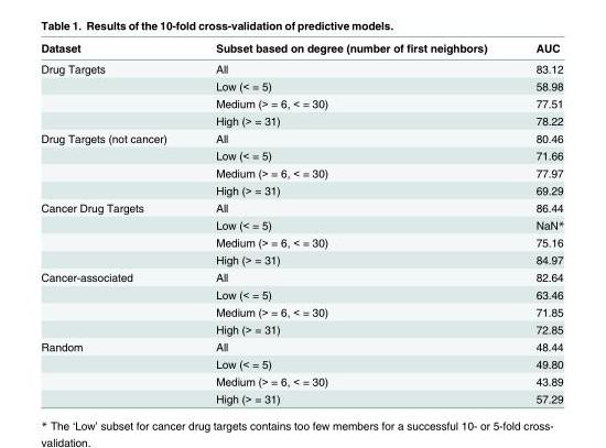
<table><thead><tr><td>Dataset</td><td>Subset based on degree (number of first neighbors)</td><td>AUC</td></tr></thead><tbody><tr><td rowspan="4">Drug Targets</td><td>All</td><td>83.12</td></tr><tr><td>Low (&lt; = 5)</td><td>58.98</td></tr><tr><td>Medium (&gt; = 6, &lt; = 30)</td><td>77.51</td></tr><tr><td>High (&gt; = 31)</td><td>78.22</td></tr><tr><td rowspan="4">Drug Targets (not cancer)</td><td>All</td><td>80.46</td></tr><tr><td>Low (&lt; = 5)</td><td>71.66</td></tr><tr><td>Medium (&gt; = 6, &lt; = 30)</td><td>77.97</td></tr><tr><td>High (&gt; = 31)</td><td>69.29</td></tr><tr><td rowspan="4">Cancer Drug Targets</td><td>All</td><td>86.44</td></tr><tr><td>Low (&lt; = 5)</td><td>NaN*</td></tr><tr><td>Medium (&gt; = 6, &lt; = 30)</td><td>75.16</td></tr><tr><td>High (&gt; = 31)</td><td>84.97</td></tr><tr><td rowspan="4">Cancer-associated</td><td>All</td><td>82.64</td></tr><tr><td>Low (&lt; = 5)</td><td>63.46</td></tr><tr><td>Medium (&gt; = 6, &lt; = 30)</td><td>71.85</td></tr><tr><td>High (&gt; = 31)</td><td>72.85</td></tr><tr><td rowspan="4">Random</td><td>All</td><td>48.44</td></tr><tr><td>Low (&lt; = 5)</td><td>49.80</td></tr><tr><td>Medium (&gt; = 6, &lt; = 30)</td><td>43.89</td></tr><tr><td>High (&gt; = 31)</td><td>57.29</td></tr></tbody></table>